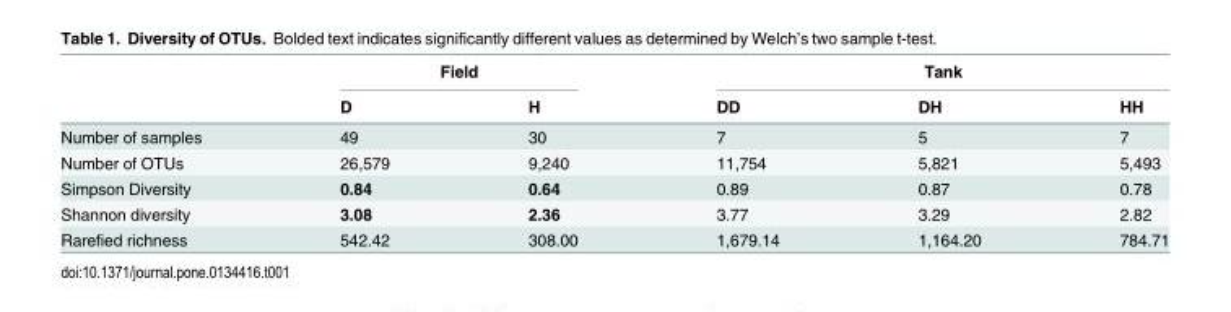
<table><thead><tr><td rowspan="2"></td><td colspan="2">Field</td><td colspan="3">Tank</td></tr><tr><td>D</td><td>H</td><td>DD</td><td>DH</td><td>HH</td></tr></thead><tbody><tr><td>Number of samples</td><td>49</td><td>30</td><td>7</td><td>5</td><td>7</td></tr><tr><td>Number of OTUs</td><td>26,579</td><td>9,240</td><td>11,754</td><td>5,821</td><td>5,493</td></tr><tr><td>Simpson Diversity</td><td>0.84</td><td>0.64</td><td>0.89</td><td>0.87</td><td>0.78</td></tr><tr><td>Shannon diversity</td><td>3.08</td><td>2.36</td><td>3.77</td><td>3.29</td><td>2.82</td></tr><tr><td>Rarefied richness</td><td>542.42</td><td>308.00</td><td>1,679.14</td><td>1,164.20</td><td>784.71</td></tr></tbody></table>